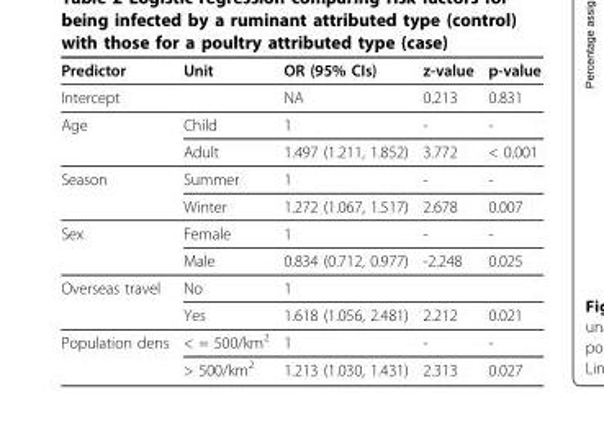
<table><thead><tr><td>Predictor</td><td>Unit</td><td>OR (95% CIs)</td><td>z-value</td><td>p-value</td></tr></thead><tbody><tr><td>Intercept</td><td></td><td>NA</td><td>0.213</td><td>0.831</td></tr><tr><td rowspan="2">Age</td><td>Child</td><td>1</td><td>-</td><td>-</td></tr><tr><td>Adult</td><td>1.497 (1.211, 1.852)</td><td>3.772</td><td>&lt; 0.001</td></tr><tr><td rowspan="2">Season</td><td>Summer</td><td>1</td><td>-</td><td>-</td></tr><tr><td>Winter</td><td>1.272 (1.067, 1.517)</td><td>2.678</td><td>0.007</td></tr><tr><td rowspan="2">Sex</td><td>Female</td><td>1</td><td>-</td><td>-</td></tr><tr><td>Male</td><td>0.834 (0.712, 0.977)</td><td>-2.248</td><td>0.025</td></tr><tr><td rowspan="2">Overseas travel</td><td>No</td><td>1</td><td></td><td></td></tr><tr><td>Yes</td><td>1.618 (1.056, 2.481)</td><td>2.212</td><td>0.021</td></tr><tr><td rowspan="2">Population dens</td><td>&lt; = 500/km<sup>2</sup></td><td>1</td><td>-</td><td>-</td></tr><tr><td>&gt; 500/km<sup>2</sup></td><td>1.213 (1.030, 1.431)</td><td>2.313</td><td>0.027</td></tr></tbody></table>